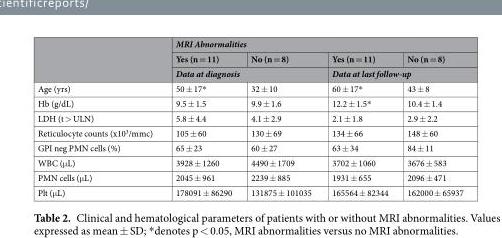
<table><thead><tr><td rowspan="3"></td><td colspan="4">MRI Abnormalities</td></tr><tr><td>Yes (n = 11)</td><td>No (n = 8)</td><td>Yes (n = 11)</td><td>No (n = 8)</td></tr><tr><td colspan="2">Data at diagnosis</td><td colspan="2">Data at last follow-up</td></tr></thead><tbody><tr><td>Age (yrs)</td><td>50 ± 17*</td><td>32 ± 10</td><td>60 ± 17*</td><td>43 ± 8</td></tr><tr><td>Hb (g/dL)</td><td>9.5 ± 1.5</td><td>9.9 ± 1.6</td><td>12.2 ± 1.5*</td><td>10.4 ± 1.4</td></tr><tr><td>LDH (t &gt; ULN)</td><td>5.8 ± 4.4</td><td>4.1 ± 2.9</td><td>2.1 ± 1.8</td><td>2.9 ± 2.2</td></tr><tr><td>Reticulocyte counts (x10<sup>3</sup>/mmc)</td><td>105 ± 60</td><td>130 ± 69</td><td>134 ± 66</td><td>148 ± 60</td></tr><tr><td>GPI neg PMN cells (%)</td><td>65 ± 23</td><td>60 ± 27</td><td>63 ± 34</td><td>84 ± 11</td></tr><tr><td>WBC (μL)</td><td>3928 ± 1260</td><td>4490 ± 1709</td><td>3702 ± 1060</td><td>3676 ± 583</td></tr><tr><td>PMN cells (μL)</td><td>2045 ± 961</td><td>2239 ± 885</td><td>1931 ± 655</td><td>2096 ± 471</td></tr><tr><td>Plt (μL)</td><td>178091 ± 86290</td><td>131875 ± 101035</td><td>165564 ± 82344</td><td>162000 ± 65937</td></tr></tbody></table>